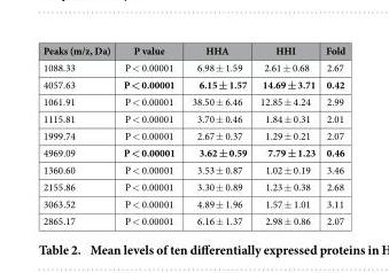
<table><thead><tr><td>Peaks (m/z, Da)</td><td>P value</td><td>HHA</td><td>HHI</td><td>Fold</td></tr></thead><tbody><tr><td>1088.33</td><td>P &lt; 0.00001</td><td>6.98 ± 1.59</td><td>2.61 ± 0.68</td><td>2.67</td></tr><tr><td>4057.63</td><td>P &lt; 0.00001</td><td>6.15 ± 1.57</td><td>14.69 ± 3.71</td><td>0.42</td></tr><tr><td>1061.91</td><td>P &lt; 0.00001</td><td>38.50 ± 6.46</td><td>12.85 ± 4.24</td><td>2.99</td></tr><tr><td>1115.81</td><td>P &lt; 0.00001</td><td>3.70 ± 0.46</td><td>1.84 ± 0.31</td><td>2.01</td></tr><tr><td>1999.74</td><td>P &lt; 0.00001</td><td>2.67 ± 0.37</td><td>1.29 ± 0.21</td><td>2.07</td></tr><tr><td>4969.09</td><td>P &lt; 0.00001</td><td>3.62 ± 0.59</td><td>7.79 ± 1.23</td><td>0.46</td></tr><tr><td>1360.60</td><td>P &lt; 0.00001</td><td>3.53 ± 0.87</td><td>1.02 ± 0.19</td><td>3.46</td></tr><tr><td>2155.86</td><td>P &lt; 0.00001</td><td>3.30 ± 0.89</td><td>1.23 ± 0.38</td><td>2.68</td></tr><tr><td>3063.52</td><td>P &lt; 0.00001</td><td>4.89 ± 1.96</td><td>1.57 ± 1.01</td><td>3.11</td></tr><tr><td>2865.17</td><td>P &lt; 0.00001</td><td>6.16 ± 1.37</td><td>2.98 ± 0.86</td><td>2.07</td></tr></tbody></table>